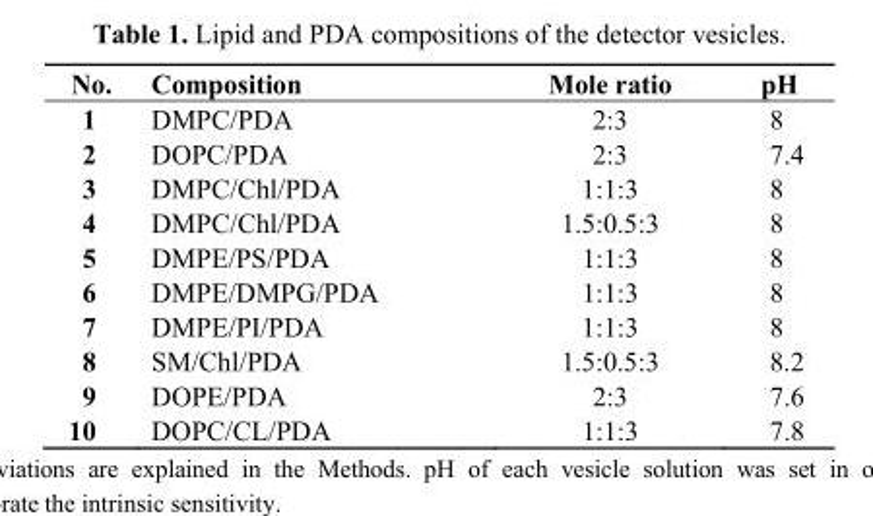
<table><thead><tr><td>No.</td><td>Composition</td><td>Mole ratio</td><td>pH</td></tr></thead><tbody><tr><td>1</td><td>DMPC/PDA</td><td>2:3</td><td>8</td></tr><tr><td>2</td><td>DOPC/PDA</td><td>2:3</td><td>7.4</td></tr><tr><td>3</td><td>DMPC/Chl/PDA</td><td>1:1:3</td><td>8</td></tr><tr><td>4</td><td>DMPC/Chl/PDA</td><td>1.5:0.5:3</td><td>8</td></tr><tr><td>5</td><td>DMPE/PS/PDA</td><td>1:1:3</td><td>8</td></tr><tr><td>6</td><td>DMPE/DMPG/PDA</td><td>1:1:3</td><td>8</td></tr><tr><td>7</td><td>DMPE/PI/PDA</td><td>1:1:3</td><td>8</td></tr><tr><td>8</td><td>SM/Chl/PDA</td><td>1.5:0.5:3</td><td>8.2</td></tr><tr><td>9</td><td>DOPE/PDA</td><td>2:3</td><td>7.6</td></tr><tr><td>10</td><td>DOPC/CL/PDA</td><td>1:1:3</td><td>7.8</td></tr></tbody></table>